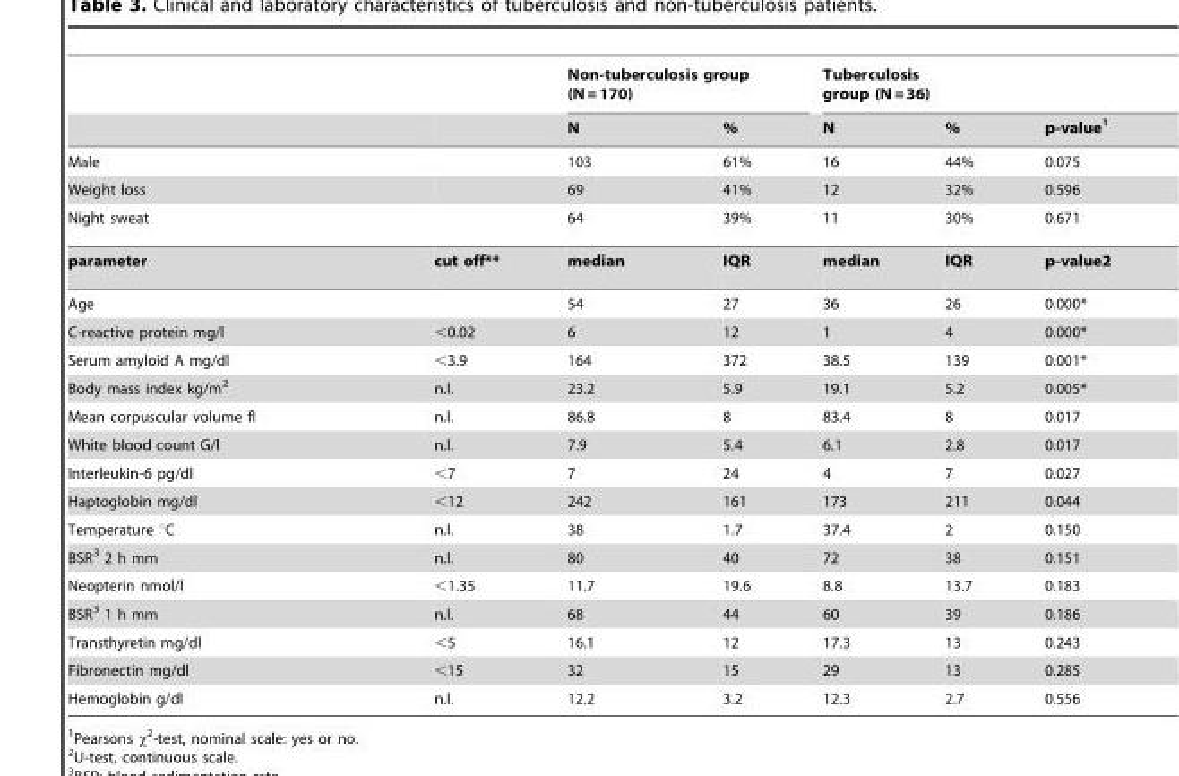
<table><thead><tr><td rowspan="2"></td><td rowspan="2"></td><td colspan="2">Non-tuberculosis group (N = 170)</td><td colspan="3">Tuberculosis group (N = 36)</td></tr><tr><td>N</td><td>%</td><td>N</td><td>%</td><td>p-value<sup>1</sup></td></tr></thead><tbody><tr><td>Male</td><td></td><td>103</td><td>61%</td><td>16</td><td>44%</td><td>0.075</td></tr><tr><td>Weight loss</td><td></td><td>69</td><td>41%</td><td>12</td><td>32%</td><td>0.596</td></tr><tr><td>Night sweat</td><td></td><td>64</td><td>39%</td><td>11</td><td>30%</td><td>0.671</td></tr><tr><td>parameter</td><td>cut off**</td><td>median</td><td>IQR</td><td>median</td><td>IQR</td><td>p-value2</td></tr><tr><td>Age</td><td></td><td>54</td><td>27</td><td>36</td><td>26</td><td>0.000*</td></tr><tr><td>C-reactive protein mg/l</td><td>&lt;0.02</td><td>6</td><td>12</td><td>1</td><td>4</td><td>0.000*</td></tr><tr><td>Serum amyloid A mg/dl</td><td>&lt;3.9</td><td>164</td><td>372</td><td>38.5</td><td>139</td><td>0.001*</td></tr><tr><td>Body mass index kg/m<sup>2</sup></td><td>n.l.</td><td>23.2</td><td>5.9</td><td>19.1</td><td>5.2</td><td>0.005*</td></tr><tr><td>Mean corpuscular volume fl</td><td>n.l.</td><td>86.8</td><td>8</td><td>83.4</td><td>8</td><td>0.017</td></tr><tr><td>White blood count G/l</td><td>n.l.</td><td>7.9</td><td>5.4</td><td>6.1</td><td>2.8</td><td>0.017</td></tr><tr><td>Interleukin-6 pg/dl</td><td>&lt;7</td><td>7</td><td>24</td><td>4</td><td>7</td><td>0.027</td></tr><tr><td>Haptoglobin mg/dl</td><td>&lt;12</td><td>242</td><td>161</td><td>173</td><td>211</td><td>0.044</td></tr><tr><td>Temperature °C</td><td>n.l.</td><td>38</td><td>1.7</td><td>37.4</td><td>2</td><td>0.150</td></tr><tr><td>BSR<sup>3</sup> 2 h mm</td><td>n.l.</td><td>80</td><td>40</td><td>72</td><td>38</td><td>0.151</td></tr><tr><td>Neopterin nmol/l</td><td>&lt;1.35</td><td>11.7</td><td>19.6</td><td>8.8</td><td>13.7</td><td>0.183</td></tr><tr><td>BSR<sup>3</sup> 1 h mm</td><td>n.l.</td><td>68</td><td>44</td><td>60</td><td>39</td><td>0.186</td></tr><tr><td>Transthyretin mg/dl</td><td>&lt;5</td><td>16.1</td><td>12</td><td>17.3</td><td>13</td><td>0.243</td></tr><tr><td>Fibronectin mg/dl</td><td>&lt;15</td><td>32</td><td>15</td><td>29</td><td>13</td><td>0.285</td></tr><tr><td>Hemoglobin g/dl</td><td>n.l.</td><td>12.2</td><td>3.2</td><td>12.3</td><td>2.7</td><td>0.556</td></tr></tbody></table>